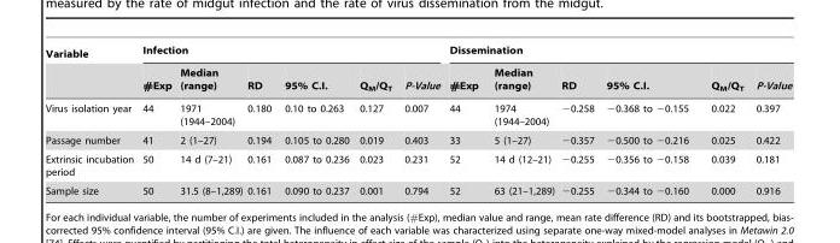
<table><thead><tr><td rowspan="2">Variable</td><td colspan="6">Infection</td><td colspan="6">Dissemination</td></tr><tr><td>#Exp</td><td>Median (range)</td><td>RD</td><td>95% C.I.</td><td>Q<sub>M</sub>/Q<sub>T</sub></td><td>P-Value</td><td>#Exp</td><td>Median (range)</td><td>RD</td><td>95% C.I.</td><td>Q<sub>M</sub>/Q<sub>T</sub></td><td>P-Value</td></tr></thead><tbody><tr><td>Virus isolation year</td><td>44</td><td>1971 (1944–2004)</td><td>0.180</td><td>0.10 to 0.263</td><td>0.127</td><td>0.007</td><td>44</td><td>1974 (1944–2004)</td><td>−0.258</td><td>−0.368 to −0.155</td><td>0.022</td><td>0.397</td></tr><tr><td>Passage number</td><td>41</td><td>2 (1–27)</td><td>0.194</td><td>0.105 to 0.280</td><td>0.019</td><td>0.403</td><td>33</td><td>5 (1–27)</td><td>−0.357</td><td>−0.500 to −0.216</td><td>0.025</td><td>0.422</td></tr><tr><td>Extrinsic incubation period</td><td>50</td><td>14 d (7–21)</td><td>0.161</td><td>0.087 to 0.236</td><td>0.023</td><td>0.231</td><td>52</td><td>14 d (12–21)</td><td>−0.255</td><td>−0.356 to −0.158</td><td>0.039</td><td>0.181</td></tr><tr><td>Sample size</td><td>50</td><td>31.5 (8–1,289)</td><td>0.161</td><td>0.090 to 0.237</td><td>0.001</td><td>0.794</td><td>52</td><td>63 (21–1,289)</td><td>−0.255</td><td>−0.344 to −0.160</td><td>0.000</td><td>0.916</td></tr></tbody></table>